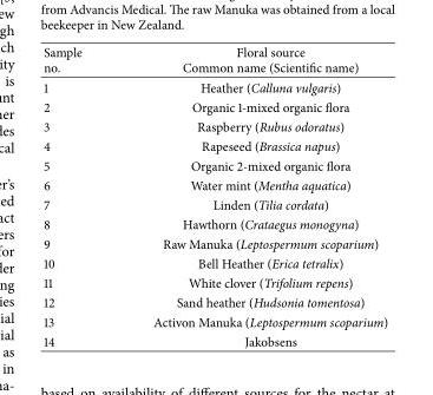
<table><thead><tr><td>Sample no.</td><td>Floral source Common name (Scientific name)</td></tr></thead><tbody><tr><td>1</td><td>Heather (Calluna vulgaris)</td></tr><tr><td>2</td><td>Organic 1-mixed organic flora</td></tr><tr><td>3</td><td>Raspberry (Rubus odoratus)</td></tr><tr><td>4</td><td>Rapeseed (Brassica napus)</td></tr><tr><td>5</td><td>Organic 2-mixed organic flora</td></tr><tr><td>6</td><td>Water mint (Mentha aquatica)</td></tr><tr><td>7</td><td>Linden (Tilia cordata)</td></tr><tr><td>8</td><td>Hawthorn (Crataegus monogyna)</td></tr><tr><td>9</td><td>Raw Manuka (Leptospermum scoparium)</td></tr><tr><td>10</td><td>Bell Heather (Erica tetralix)</td></tr><tr><td>11</td><td>White clover (Trifolium repens)</td></tr><tr><td>12</td><td>Sand heather (Hudsonia tomentosa)</td></tr><tr><td>13</td><td>Activon Manuka (Leptospermum scoparium)</td></tr><tr><td>14</td><td>Jakobsens</td></tr></tbody></table>